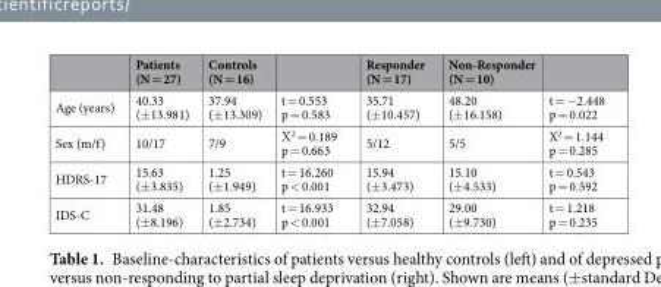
<table><thead><tr><td></td><td>Patients (N = 27)</td><td>Controls (N = 16)</td><td></td><td>Responder (N = 17)</td><td>Non-Responder (N = 10)</td><td></td></tr></thead><tbody><tr><td>Age (years)</td><td>40.33 (±13.981)</td><td>37.94 (±13.309)</td><td>t = 0.553 p = 0.583</td><td>35.71 (±10.457)</td><td>48.20 (±16.158)</td><td>t = −2.448 p = 0.022</td></tr><tr><td>Sex (m/f)</td><td>10/17</td><td>7/9</td><td>Χ<sup>2</sup> = 0.189 p = 0.663</td><td>5/12</td><td>5/5</td><td>X<sup>2</sup> = 1.144 p = 0.285</td></tr><tr><td>HDRS-17</td><td>15.63 (±3.835)</td><td>1.25 (±1.949)</td><td>t = 16.260 p &lt; 0.001</td><td>15.94 (±3.473)</td><td>15.10 (±4.533)</td><td>t = 0.543 p = 0.592</td></tr><tr><td>IDS-C</td><td>31.48 (±8.196)</td><td>1.85 (±2.734)</td><td>t = 16.933 p &lt; 0.001</td><td>32.94 (±7.058)</td><td>29.00 (±9.730)</td><td>t = 1.218 p = 0.235</td></tr></tbody></table>